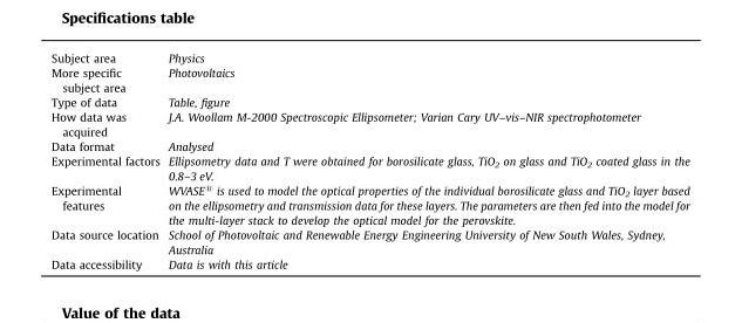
<table><tbody><tr><td>Subject area</td><td>Physics</td></tr><tr><td>More specific subject area</td><td>Photovoltaics</td></tr><tr><td>Type of data</td><td>Table, figure</td></tr><tr><td>How data was acquired</td><td>J.A. Woollam M-2000 Spectroscopic Ellipsometer; Varian Cary UV–vis–NIR spectrophotometer</td></tr><tr><td>Data format</td><td>Analysed</td></tr><tr><td>Experimental factors</td><td>Ellipsometry data and T were obtained for borosilicate glass, TiO<sub>2</sub> on glass and TiO<sub>2</sub> coated glass in the 0.8–3 eV.</td></tr><tr><td>Experimental features</td><td>WVASE<sup>®</sup> is used to model the optical properties of the individual borosilicate glass and TiO<sub>2</sub> layer based on the ellipsometry and transmission data for these layers. The parameters are then fed into the model for the multi-layer stack to develop the optical model for the perovskite.</td></tr><tr><td>Data source location</td><td>School of Photovoltaic and Renewable Energy Engineering University of New South Wales, Sydney, Australia</td></tr><tr><td>Data accessibility</td><td>Data is with this article</td></tr></tbody></table>